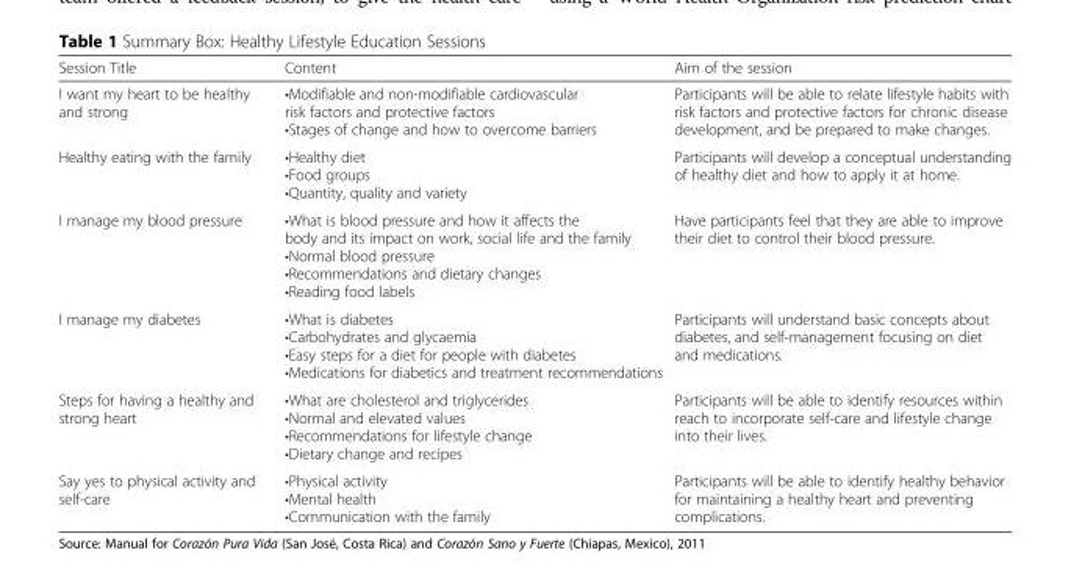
<table><thead><tr><td>Session Title</td><td>Content</td><td>Aim of the session</td></tr></thead><tbody><tr><td>I want my heart to be healthy and strong</td><td>•Modifiable and non-modifiable cardiovascular risk factors and protective factors •Stages of change and how to overcome barriers</td><td>Participants will be able to relate lifestyle habits with risk factors and protective factors for chronic disease development, and be prepared to make changes.</td></tr><tr><td>Healthy eating with the family</td><td>•Healthy diet •Food groups •Quantity, quality and variety</td><td>Participants will develop a conceptual understanding of healthy diet and how to apply it at home.</td></tr><tr><td>I manage my blood pressure</td><td>•What is blood pressure and how it affects the body and its impact on work, social life and the family •Normal blood pressure •Recommendations and dietary changes •Reading food labels</td><td>Have participants feel that they are able to improve their diet to control their blood pressure.</td></tr><tr><td>I manage my diabetes</td><td>•What is diabetes •Carbohydrates and glycaemia •Easy steps for a diet for people with diabetes •Medications for diabetics and treatment recommendations</td><td>Participants will understand basic concepts about diabetes, and self-management focusing on diet and medications.</td></tr><tr><td>Steps for having a healthy and strong heart</td><td>•What are cholesterol and triglycerides •Normal and elevated values •Recommendations for lifestyle change •Dietary change and recipes</td><td>Participants will be able to identify resources within reach to incorporate self-care and lifestyle change into their lives.</td></tr><tr><td>Say yes to physical activity and self-care</td><td>•Physical activity •Mental health •Communication with the family</td><td>Participants will be able to identify healthy behavior for maintaining a healthy heart and preventing complications.</td></tr></tbody></table>